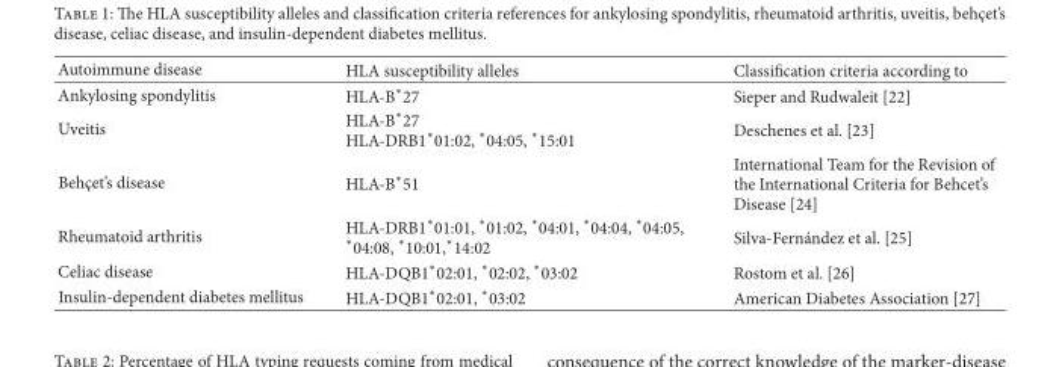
<table><thead><tr><td>Autoimmune disease</td><td>HLA susceptibility alleles</td><td>Classi�cation criteria according to</td></tr></thead><tbody><tr><td>Ankylosing spondylitis</td><td>HLA-B∗27</td><td>Sieper and Rudwaleit [22]</td></tr><tr><td>Uveitis</td><td>HLA-B∗27 HLA-DRB1∗01:02, ∗04:05, ∗15:01</td><td>Deschenes et al. [23]</td></tr><tr><td>Behçet’s disease</td><td>HLA-B∗51</td><td>International Team for the Revision of the International Criteria for Behcet’s Disease [24]</td></tr><tr><td>Rheumatoid arthritis</td><td>HLA-DRB1∗01:01, ∗01:02, ∗04:01, ∗04:04, ∗04:05, ∗04:08, ∗10:01,∗14:02</td><td>Silva-Fernández et al. [25]</td></tr><tr><td>Celiac disease</td><td>HLA-DQB1∗02:01, ∗02:02, ∗03:02</td><td>Rostom et al. [26]</td></tr><tr><td>Insulin-dependent diabetes mellitus</td><td>HLA-DQB1∗02:01, ∗03:02</td><td>American Diabetes Association [27]</td></tr></tbody></table>